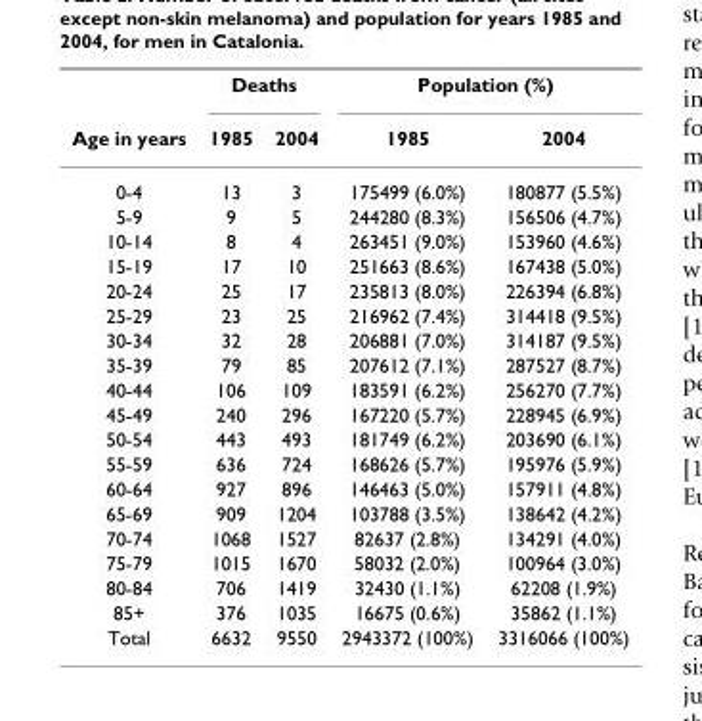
<table><thead><tr><td rowspan="2">Age in years</td><td colspan="2">Deaths</td><td colspan="2">Population (%)</td></tr><tr><td>1985</td><td>2004</td><td>1985</td><td>2004</td></tr></thead><tbody><tr><td>0-4</td><td>13</td><td>3</td><td>175499 (6.0%)</td><td>180877 (5.5%)</td></tr><tr><td>5-9</td><td>9</td><td>5</td><td>244280 (8.3%)</td><td>156506 (4.7%)</td></tr><tr><td>10-14</td><td>8</td><td>4</td><td>263451 (9.0%)</td><td>153960 (4.6%)</td></tr><tr><td>15-19</td><td>17</td><td>10</td><td>251663 (8.6%)</td><td>167438 (5.0%)</td></tr><tr><td>20-24</td><td>25</td><td>17</td><td>235813 (8.0%)</td><td>226394 (6.8%)</td></tr><tr><td>25-29</td><td>23</td><td>25</td><td>216962 (7.4%)</td><td>314418 (9.5%)</td></tr><tr><td>30-34</td><td>32</td><td>28</td><td>206881 (7.0%)</td><td>314187 (9.5%)</td></tr><tr><td>35-39</td><td>79</td><td>85</td><td>207612 (7.1%)</td><td>287527 (8.7%)</td></tr><tr><td>40-44</td><td>106</td><td>109</td><td>183591 (6.2%)</td><td>256270 (7.7%)</td></tr><tr><td>45-49</td><td>240</td><td>296</td><td>167220 (5.7%)</td><td>228945 (6.9%)</td></tr><tr><td>50-54</td><td>443</td><td>493</td><td>181749 (6.2%)</td><td>203690 (6.1%)</td></tr><tr><td>55-59</td><td>636</td><td>724</td><td>168626 (5.7%)</td><td>195976 (5.9%)</td></tr><tr><td>60-64</td><td>927</td><td>896</td><td>146463 (5.0%)</td><td>157911 (4.8%)</td></tr><tr><td>65-69</td><td>909</td><td>1204</td><td>103788 (3.5%)</td><td>138642 (4.2%)</td></tr><tr><td>70-74</td><td>1068</td><td>1527</td><td>82637 (2.8%)</td><td>134291 (4.0%)</td></tr><tr><td>75-79</td><td>1015</td><td>1670</td><td>58032 (2.0%)</td><td>100964 (3.0%)</td></tr><tr><td>80-84</td><td>706</td><td>1419</td><td>32430 (1.1%)</td><td>62208 (1.9%)</td></tr><tr><td>85+</td><td>376</td><td>1035</td><td>16675 (0.6%)</td><td>35862 (1.1%)</td></tr><tr><td>Total</td><td>6632</td><td>9550</td><td>2943372 (100%)</td><td>3316066 (100%)</td></tr></tbody></table>